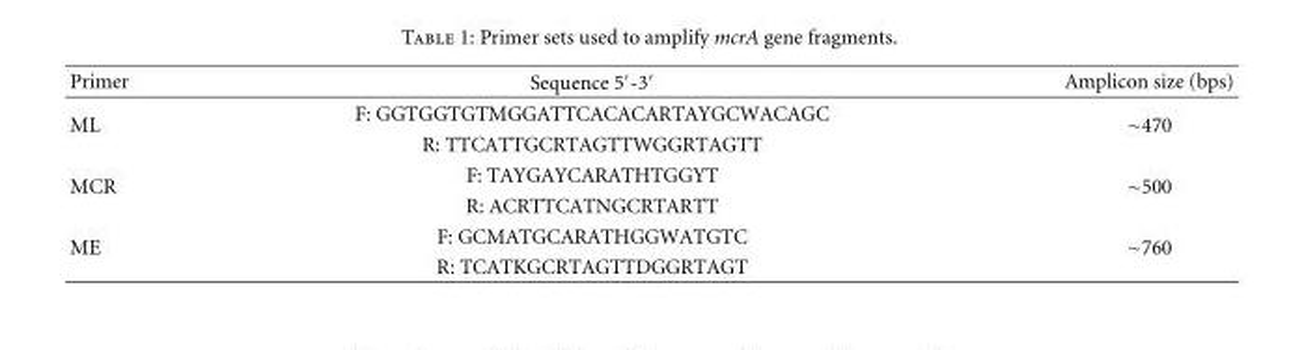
<table><thead><tr><td>Primer</td><td>Sequence 5<sup>′</sup>-3<sup>′</sup></td><td>Amplicon size (bps)</td></tr></thead><tbody><tr><td rowspan="2">ML</td><td>F: GGTGGTGTMGGATTCACACARTAYGCWACAGC</td><td rowspan="2">∼470</td></tr><tr><td>R: TTCATTGCRTAGTTWGGRTAGTT</td></tr><tr><td rowspan="2">MCR</td><td>F: TAYGAYCARATHTGGYT</td><td rowspan="2">∼500</td></tr><tr><td>R: ACRTTCATNGCRTARTT</td></tr><tr><td rowspan="2">ME</td><td>F: GCMATGCARATHGGWATGTC</td><td rowspan="2">∼760</td></tr><tr><td>R: TCATKGCRTAGTTDGGRTAGT</td></tr></tbody></table>